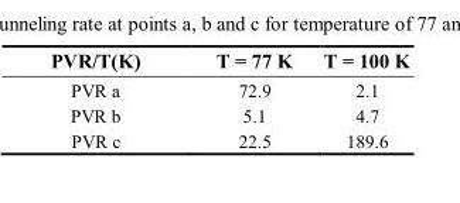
<table><thead><tr><td>PVR/T(K)</td><td>T = 77 K</td><td>T = 100 K</td></tr></thead><tbody><tr><td>PVR a</td><td>72.9</td><td>2.1</td></tr><tr><td>PVR b</td><td>5.1</td><td>4.7</td></tr><tr><td>PVR c</td><td>22.5</td><td>189.6</td></tr></tbody></table>